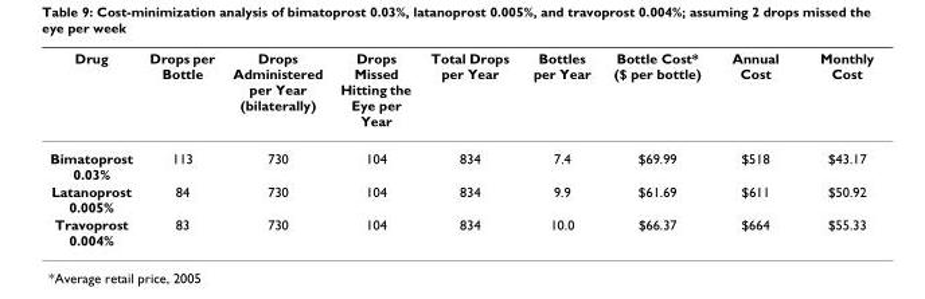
<table><thead><tr><td>Drug</td><td>Drops per Bottle</td><td>Drops Administered per Year (bilaterally)</td><td>Drops Missed Hitting the Eye per Year</td><td>Total Drops per Year</td><td>Bottles per Year</td><td>Bottle Cost* ($ per bottle)</td><td>Annual Cost</td><td>Monthly Cost</td></tr></thead><tbody><tr><td>Bimatoprost 0.03%</td><td>113</td><td>730</td><td>104</td><td>834</td><td>7.4</td><td>$69.99</td><td>$518</td><td>$43.17</td></tr><tr><td>Latanoprost 0.005%</td><td>84</td><td>730</td><td>104</td><td>834</td><td>9.9</td><td>$61.69</td><td>$611</td><td>$50.92</td></tr><tr><td>Travoprost 0.004%</td><td>83</td><td>730</td><td>104</td><td>834</td><td>10.0</td><td>$66.37</td><td>$664</td><td>$55.33</td></tr></tbody></table>